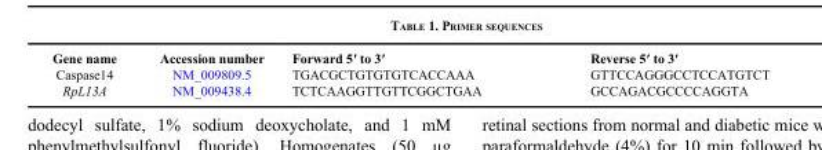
<table><thead><tr><td>Gene name</td><td>Accession number</td><td>Forward 5′ to 3′</td><td>Reverse 5′ to 3′</td></tr></thead><tbody><tr><td>Caspase14</td><td>NM_009809.5</td><td>TGACGCTGTGTGTCACCAAA</td><td>GTTCCAGGGCCTCCATGTCT</td></tr><tr><td>RpL13A</td><td>NM_009438.4</td><td>TCTCAAGGTTGTTCGGCTGAA</td><td>GCCAGACGCCCCAGGTA</td></tr></tbody></table>